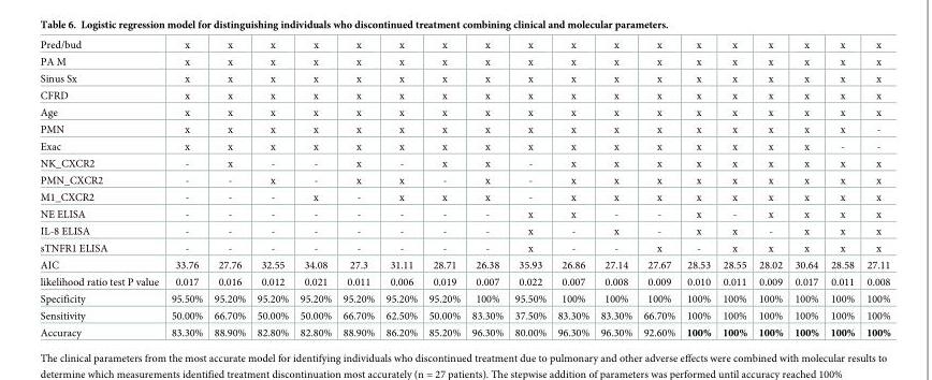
<table><tbody><tr><td>Pred/bud</td><td>x</td><td>x</td><td>x</td><td>x</td><td>x</td><td>x</td><td>x</td><td>x</td><td>x</td><td>x</td><td>x</td><td>x</td><td>x</td><td>x</td><td>x</td><td>x</td><td>x</td><td>x</td></tr><tr><td>PA M</td><td>x</td><td>x</td><td>x</td><td>x</td><td>x</td><td>x</td><td>x</td><td>x</td><td>x</td><td>x</td><td>x</td><td>x</td><td>x</td><td>x</td><td>x</td><td>x</td><td>x</td><td>x</td></tr><tr><td>Sinus Sx</td><td>x</td><td>x</td><td>x</td><td>x</td><td>x</td><td>x</td><td>x</td><td>x</td><td>x</td><td>x</td><td>x</td><td>x</td><td>x</td><td>x</td><td>x</td><td>x</td><td>x</td><td>x</td></tr><tr><td>CFRD</td><td>x</td><td>x</td><td>x</td><td>x</td><td>x</td><td>x</td><td>x</td><td>x</td><td>x</td><td>x</td><td>x</td><td>x</td><td>x</td><td>x</td><td>x</td><td>x</td><td>x</td><td>x</td></tr><tr><td>Age</td><td>x</td><td>x</td><td>x</td><td>x</td><td>x</td><td>x</td><td>x</td><td>x</td><td>x</td><td>x</td><td>x</td><td>x</td><td>x</td><td>x</td><td>x</td><td>x</td><td>x</td><td>x</td></tr><tr><td>PMN</td><td>x</td><td>x</td><td>x</td><td>x</td><td>x</td><td>x</td><td>x</td><td>x</td><td>x</td><td>x</td><td>x</td><td>x</td><td>x</td><td>x</td><td>x</td><td>x</td><td>x</td><td>-</td></tr><tr><td>Exac</td><td>x</td><td>x</td><td>x</td><td>x</td><td>x</td><td>x</td><td>x</td><td>x</td><td>x</td><td>x</td><td>x</td><td>x</td><td>x</td><td>x</td><td>x</td><td>x</td><td>-</td><td>-</td></tr><tr><td>NK_CXCR2</td><td>-</td><td>x</td><td>-</td><td>-</td><td>x</td><td>-</td><td>x</td><td>x</td><td>-</td><td>x</td><td>x</td><td>x</td><td>x</td><td>x</td><td>x</td><td>x</td><td>x</td><td>x</td></tr><tr><td>PMN_CXCR2</td><td>-</td><td>-</td><td>x</td><td>-</td><td>x</td><td>x</td><td>-</td><td>x</td><td>-</td><td>x</td><td>x</td><td>x</td><td>x</td><td>x</td><td>x</td><td>x</td><td>x</td><td>x</td></tr><tr><td>M1_CXCR2</td><td>-</td><td>-</td><td>-</td><td>x</td><td>-</td><td>x</td><td>x</td><td>x</td><td>-</td><td>x</td><td>x</td><td>x</td><td>x</td><td>x</td><td>x</td><td>x</td><td>x</td><td>x</td></tr><tr><td>NE ELISA</td><td>-</td><td>-</td><td>-</td><td>-</td><td>-</td><td>-</td><td>-</td><td>-</td><td>x</td><td>x</td><td>-</td><td>-</td><td>x</td><td>-</td><td>x</td><td>x</td><td>x</td><td>x</td></tr><tr><td>IL-8 ELISA</td><td>-</td><td>-</td><td>-</td><td>-</td><td>-</td><td>-</td><td>-</td><td>-</td><td>x</td><td>-</td><td>x</td><td>-</td><td>x</td><td>x</td><td>-</td><td>x</td><td>x</td><td>x</td></tr><tr><td>sTNFR1 ELISA</td><td>-</td><td>-</td><td>-</td><td>-</td><td>-</td><td>-</td><td>-</td><td>-</td><td>x</td><td>-</td><td>-</td><td>x</td><td>-</td><td>x</td><td>x</td><td>x</td><td>x</td><td>x</td></tr><tr><td>AIC</td><td>33.76</td><td>27.76</td><td>32.55</td><td>34.08</td><td>27.3</td><td>31.11</td><td>28.71</td><td>26.38</td><td>35.93</td><td>26.86</td><td>27.14</td><td>27.67</td><td>28.53</td><td>28.55</td><td>28.02</td><td>30.64</td><td>28.58</td><td>27.11</td></tr><tr><td>likelihood ratio test P value</td><td>0.017</td><td>0.016</td><td>0.012</td><td>0.021</td><td>0.011</td><td>0.006</td><td>0.019</td><td>0.007</td><td>0.022</td><td>0.007</td><td>0.008</td><td>0.009</td><td>0.010</td><td>0.011</td><td>0.009</td><td>0.017</td><td>0.011</td><td>0.008</td></tr><tr><td>Specificity</td><td>95.50%</td><td>95.20%</td><td>95.20%</td><td>95.20%</td><td>95.20%</td><td>95.20%</td><td>95.20%</td><td>100%</td><td>95.50%</td><td>100%</td><td>100%</td><td>100%</td><td>100%</td><td>100%</td><td>100%</td><td>100%</td><td>100%</td><td>100%</td></tr><tr><td>Sensitivity</td><td>50.00%</td><td>66.70%</td><td>50.00%</td><td>50.00%</td><td>66.70%</td><td>62.50%</td><td>50.00%</td><td>83.30%</td><td>37.50%</td><td>83.30%</td><td>83.30%</td><td>66.70%</td><td>100%</td><td>100%</td><td>100%</td><td>100%</td><td>100%</td><td>100%</td></tr><tr><td>Accuracy</td><td>83.30%</td><td>88.90%</td><td>82.80%</td><td>82.80%</td><td>88.90%</td><td>86.20%</td><td>85.20%</td><td>96.30%</td><td>80.00%</td><td>96.30%</td><td>96.30%</td><td>92.60%</td><td>100%</td><td>100%</td><td>100%</td><td>100%</td><td>100%</td><td>100%</td></tr></tbody></table>